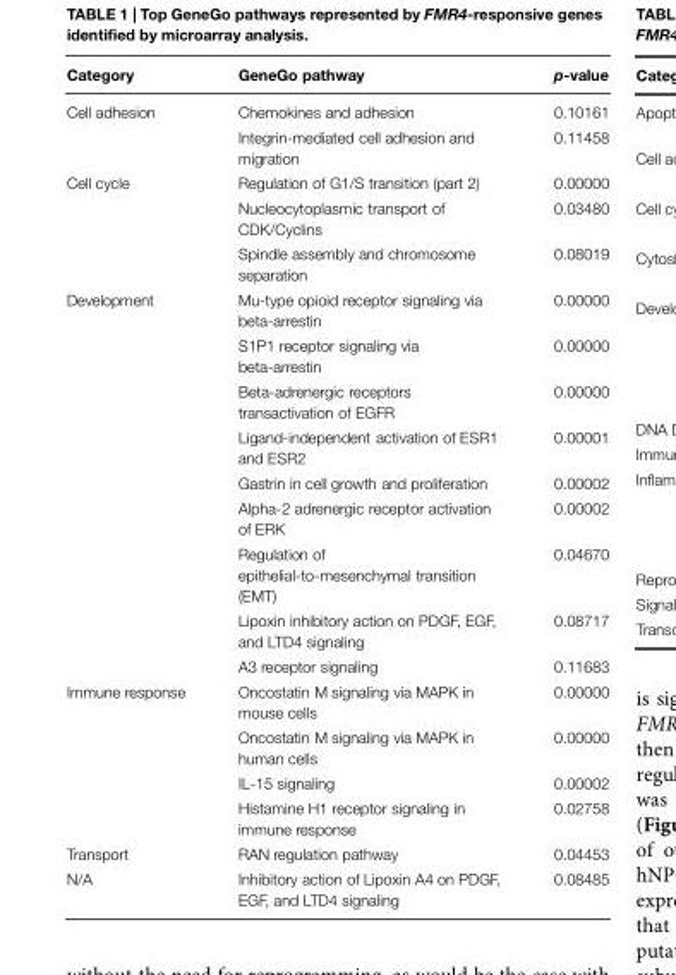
<table><thead><tr><td>Category</td><td>GeneGo pathway</td><td>p-value</td></tr></thead><tbody><tr><td rowspan="2">Cell adhesion</td><td>Chemokines and adhesion</td><td>0.10161</td></tr><tr><td>Integrin-mediated cell adhesion and migration</td><td>0.11458</td></tr><tr><td rowspan="3">Cell cycle</td><td>Regulation of G1/S transition (part 2)</td><td>0.00000</td></tr><tr><td>Nucleocytoplasmic transport of CDK/Cyclins</td><td>0.03480</td></tr><tr><td>Spindle assembly and chromosome separation</td><td>0.08019</td></tr><tr><td rowspan="9">Development</td><td>Mu-type opioid receptor signaling via beta-arrestin</td><td>0.00000</td></tr><tr><td>S1P1 receptor signaling via beta-arrestin</td><td>0.00000</td></tr><tr><td>Beta-adrenergic receptors transactivation of EGFR</td><td>0.00000</td></tr><tr><td>Ligand-independent activation of ESR1 and ESR2</td><td>0.00001</td></tr><tr><td>Gastrin in cell growth and proliferation</td><td>0.00002</td></tr><tr><td>Alpha-2 adrenergic receptor activation of ERK</td><td>0.00002</td></tr><tr><td>Regulation of epithelial-to-mesenchymal transition (EMT)</td><td>0.04670</td></tr><tr><td>Lipoxin inhibitory action on PDGF, EGF, and LTD4 signaling</td><td>0.08717</td></tr><tr><td>A3 receptor signaling</td><td>0.11683</td></tr><tr><td rowspan="4">Immune response</td><td>Oncostatin M signaling via MAPK in mouse cells</td><td>0.00000</td></tr><tr><td>Oncostatin M signaling via MAPK in human cells</td><td>0.00000</td></tr><tr><td>IL-15 signaling</td><td>0.00002</td></tr><tr><td>Histamine H1 receptor signaling in immune response</td><td>0.02758</td></tr><tr><td>Transport</td><td>RAN regulation pathway</td><td>0.04453</td></tr><tr><td>N/A</td><td>Inhibitory action of Lipoxin A4 on PDGF, EGF, and LTD4 signaling</td><td>0.08485</td></tr></tbody></table>